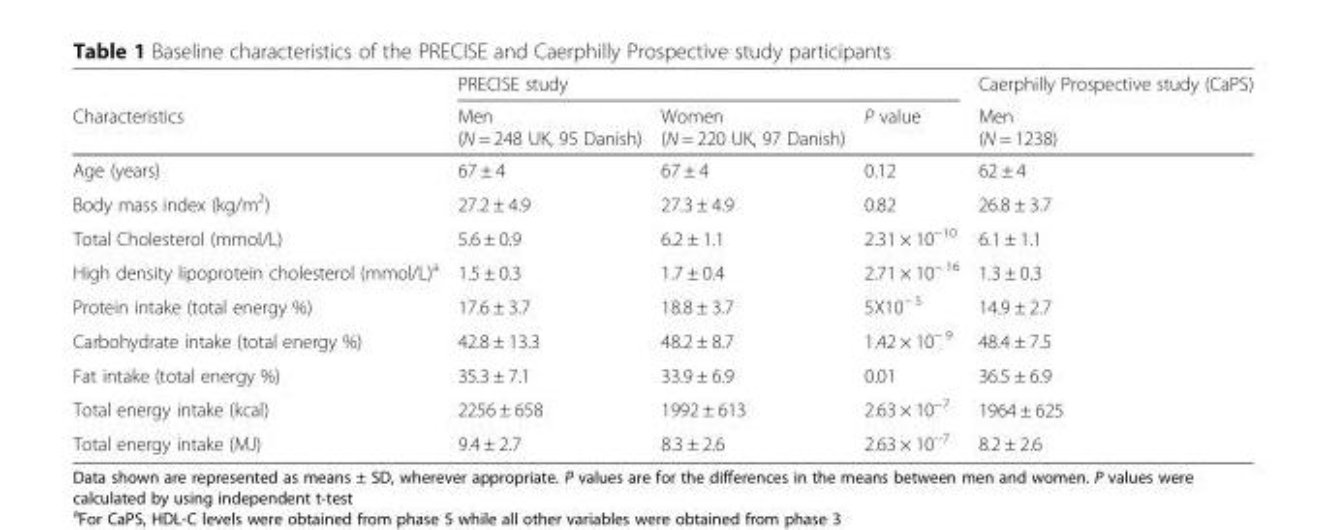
<table><thead><tr><td rowspan="2">Characteristics</td><td colspan="3">PRECISE study</td><td rowspan="2">Caerphilly Prospective study (CaPS) Men (N = 1238)</td></tr><tr><td>Men (N = 248 UK, 95 Danish)</td><td>Women (N = 220 UK, 97 Danish)</td><td>P value</td></tr></thead><tbody><tr><td>Age (years)</td><td>67 ± 4</td><td>67 ± 4</td><td>0.12</td><td>62 ± 4</td></tr><tr><td>Body mass index (kg/m<sup>2</sup>)</td><td>27.2 ± 4.9</td><td>27.3 ± 4.9</td><td>0.82</td><td>26.8 ± 3.7</td></tr><tr><td>Total Cholesterol (mmol/L)</td><td>5.6 ± 0.9</td><td>6.2 ± 1.1</td><td>2.31 × 10<sup>−10</sup></td><td>6.1 ± 1.1</td></tr><tr><td>High density lipoprotein cholesterol (mmol/L)<sup>a</sup></td><td>1.5 ± 0.3</td><td>1.7 ± 0.4</td><td>2.71 × 10<sup>− 16</sup></td><td>1.3 ± 0.3</td></tr><tr><td>Protein intake (total energy %)</td><td>17.6 ± 3.7</td><td>18.8 ± 3.7</td><td>5X10<sup>− 5</sup></td><td>14.9 ± 2.7</td></tr><tr><td>Carbohydrate intake (total energy %)</td><td>42.8 ± 13.3</td><td>48.2 ± 8.7</td><td>1.42 × 10<sup>− 9</sup></td><td>48.4 ± 7.5</td></tr><tr><td>Fat intake (total energy %)</td><td>35.3 ± 7.1</td><td>33.9 ± 6.9</td><td>0.01</td><td>36.5 ± 6.9</td></tr><tr><td>Total energy intake (kcal)</td><td>2256 ± 658</td><td>1992 ± 613</td><td>2.63 × 10<sup>−7</sup></td><td>1964 ± 625</td></tr><tr><td>Total energy intake (MJ)</td><td>9.4 ± 2.7</td><td>8.3 ± 2.6</td><td>2.63 × 10<sup>−7</sup></td><td>8.2 ± 2.6</td></tr></tbody></table>